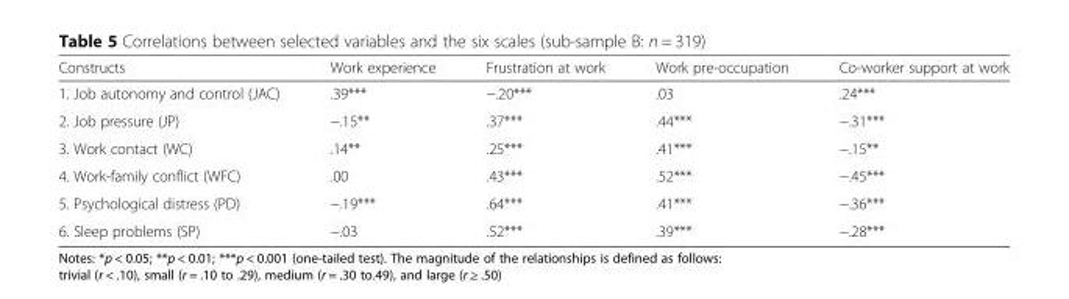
<table><thead><tr><td>Constructs</td><td>Work experience</td><td>Frustration at work</td><td>Work pre-occupation</td><td>Co-worker support at work</td></tr></thead><tbody><tr><td>1. Job autonomy and control (JAC)</td><td>.39***</td><td>−.20***</td><td>.03</td><td>.24***</td></tr><tr><td>2. Job pressure (JP)</td><td>−.15**</td><td>.37***</td><td>.44***</td><td>−.31***</td></tr><tr><td>3. Work contact (WC)</td><td>.14**</td><td>.25***</td><td>.41***</td><td>−.15**</td></tr><tr><td>4. Work-family conflict (WFC)</td><td>.00</td><td>.43***</td><td>.52***</td><td>−.45***</td></tr><tr><td>5. Psychological distress (PD)</td><td>−.19***</td><td>.64***</td><td>.41***</td><td>−.36***</td></tr><tr><td>6. Sleep problems (SP)</td><td>−.03</td><td>.52***</td><td>.39***</td><td>−.28***</td></tr></tbody></table>